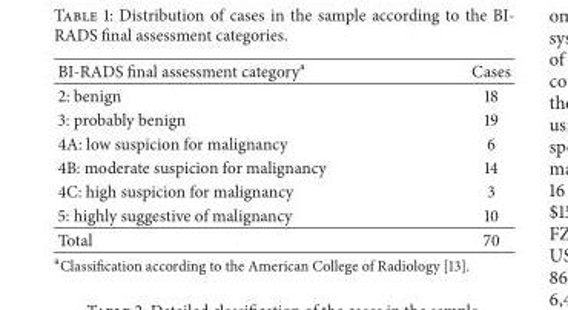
<table><thead><tr><td>BI-RADS final assessment category<sup>a</sup></td><td>Cases</td></tr></thead><tbody><tr><td>2: benign</td><td>18</td></tr><tr><td>3: probably benign</td><td>19</td></tr><tr><td>4A: low suspicion for malignancy</td><td>6</td></tr><tr><td>4B: moderate suspicion for malignancy</td><td>14</td></tr><tr><td>4C: high suspicion for malignancy</td><td>3</td></tr><tr><td>5: highly suggestive of malignancy</td><td>10</td></tr><tr><td>Total</td><td>70</td></tr></tbody></table>